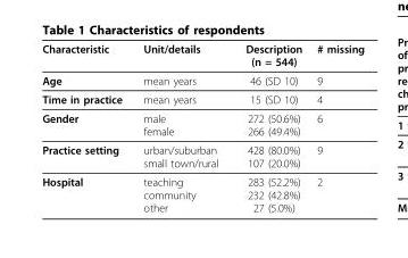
<table><thead><tr><td>Characteristic</td><td>Unit/details</td><td>Description (n = 544)</td><td># missing</td></tr></thead><tbody><tr><td>Age</td><td>mean years</td><td>46 (SD 10)</td><td>9</td></tr><tr><td>Time in practice</td><td>mean years</td><td>15 (SD 10)</td><td>4</td></tr><tr><td>Gender</td><td>male female</td><td>272 (50.6%) 266 (49.4%)</td><td>6</td></tr><tr><td>Practice setting</td><td>urban/suburban small town/rural</td><td>428 (80.0%) 107 (20.0%)</td><td>9</td></tr><tr><td>Hospital</td><td>teaching community other</td><td>283 (52.2%) 232 (42.8%) 27 (5.0%)</td><td>2</td></tr></tbody></table>